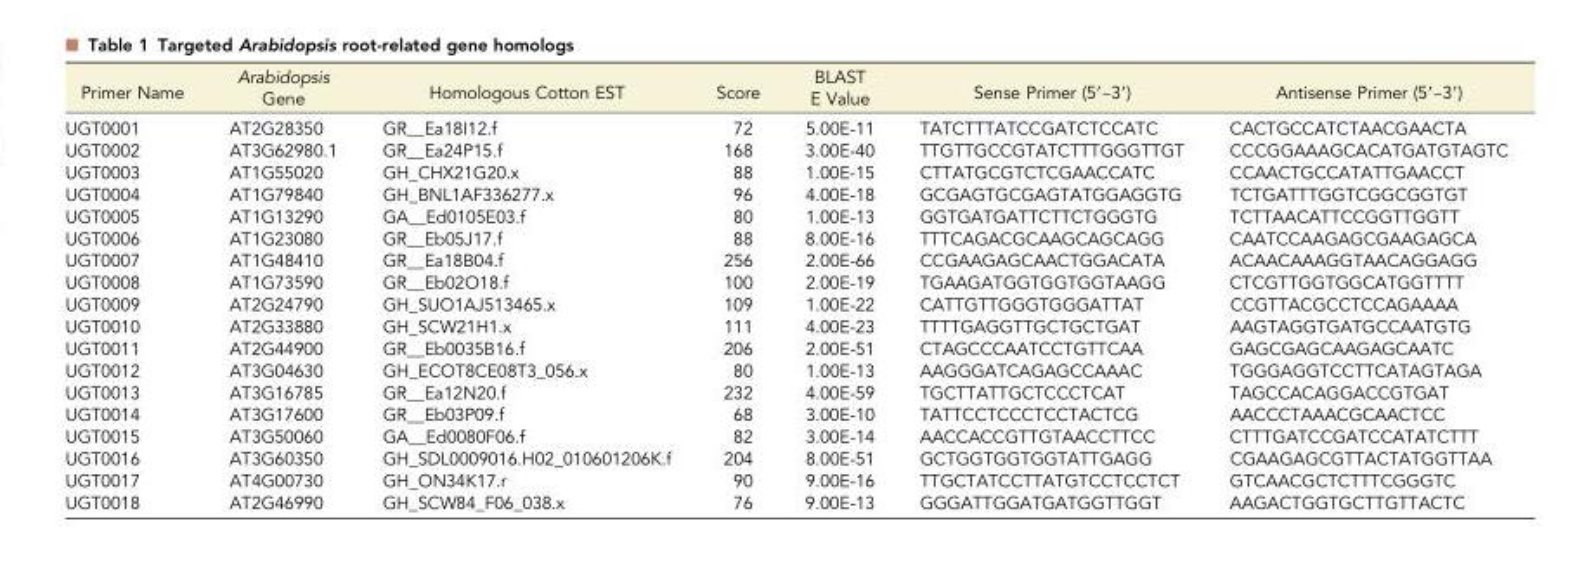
<table><thead><tr><td>Primer Name</td><td>Arabidopsis Gene</td><td>Homologous Cotton EST</td><td>Score</td><td>BLAST E Value</td><td>Sense Primer (5′–3′)</td><td>Antisense Primer (5′–3′)</td></tr></thead><tbody><tr><td>UGT0001</td><td>AT2G28350</td><td>GR__Ea18I12.f</td><td>72</td><td>5.00E-11</td><td>TATCTTTATCCGATCTCCATC</td><td>CACTGCCATCTAACGAACTA</td></tr><tr><td>UGT0002</td><td>AT3G62980.1</td><td>GR__Ea24P15.f</td><td>168</td><td>3.00E-40</td><td>TTGTTGCCGTATCTTTGGGTTGT</td><td>CCCGGAAAGCACATGATGTAGTC</td></tr><tr><td>UGT0003</td><td>AT1G55020</td><td>GH_CHX21G20.x</td><td>88</td><td>1.00E-15</td><td>CTTATGCGTCTCGAACCATC</td><td>CCAACTGCCATATTGAACCT</td></tr><tr><td>UGT0004</td><td>AT1G79840</td><td>GH_BNL1AF336277.x</td><td>96</td><td>4.00E-18</td><td>GCGAGTGCGAGTATGGAGGTG</td><td>TCTGATTTGGTCGGCGGTGT</td></tr><tr><td>UGT0005</td><td>AT1G13290</td><td>GA__Ed0105E03.f</td><td>80</td><td>1.00E-13</td><td>GGTGATGATTCTTCTGGGTG</td><td>TCTTAACATTCCGGTTGGTT</td></tr><tr><td>UGT0006</td><td>AT1G23080</td><td>GR__Eb05J17.f</td><td>88</td><td>8.00E-16</td><td>TTTCAGACGCAAGCAGCAGG</td><td>CAATCCAAGAGCGAAGAGCA</td></tr><tr><td>UGT0007</td><td>AT1G48410</td><td>GR__Ea18B04.f</td><td>256</td><td>2.00E-66</td><td>CCGAAGAGCAACTGGACATA</td><td>ACAACAAAGGTAACAGGAGG</td></tr><tr><td>UGT0008</td><td>AT1G73590</td><td>GR__Eb02O18.f</td><td>100</td><td>2.00E-19</td><td>TGAAGATGGTGGTGGTAAGG</td><td>CTCGTTGGTGGCATGGTTTT</td></tr><tr><td>UGT0009</td><td>AT2G24790</td><td>GH_SUO1AJ513465.x</td><td>109</td><td>1.00E-22</td><td>CATTGTTGGGTGGGATTAT</td><td>CCGTTACGCCTCCAGAAAA</td></tr><tr><td>UGT0010</td><td>AT2G33880</td><td>GH_SCW21H1.x</td><td>111</td><td>4.00E-23</td><td>TTTTGAGGTTGCTGCTGAT</td><td>AAGTAGGTGATGCCAATGTG</td></tr><tr><td>UGT0011</td><td>AT2G44900</td><td>GR__Eb0035B16.f</td><td>206</td><td>2.00E-51</td><td>CTAGCCCAATCCTGTTCAA</td><td>GAGCGAGCAAGAGCAATC</td></tr><tr><td>UGT0012</td><td>AT3G04630</td><td>GH_ECOT8CE08T3_056.x</td><td>80</td><td>1.00E-13</td><td>AAGGGATCAGAGCCAAAC</td><td>TGGGAGGTCCTTCATAGTAGA</td></tr><tr><td>UGT0013</td><td>AT3G16785</td><td>GR__Ea12N20.f</td><td>232</td><td>4.00E-59</td><td>TGCTTATTGCTCCCTCAT</td><td>TAGCCACAGGACCGTGAT</td></tr><tr><td>UGT0014</td><td>AT3G17600</td><td>GR__Eb03P09.f</td><td>68</td><td>3.00E-10</td><td>TATTCCTCCCTCCTACTCG</td><td>AACCCTAAACGCAACTCC</td></tr><tr><td>UGT0015</td><td>AT3G50060</td><td>GA__Ed0080F06.f</td><td>82</td><td>3.00E-14</td><td>AACCACCGTTGTAACCTTCC</td><td>CTTTGATCCGATCCATATCTTT</td></tr><tr><td>UGT0016</td><td>AT3G60350</td><td>GH_SDL0009016.H02_010601206K.f</td><td>204</td><td>8.00E-51</td><td>GCTGGTGGTGGTATTGAGG</td><td>CGAAGAGCGTTACTATGGTTAA</td></tr><tr><td>UGT0017</td><td>AT4G00730</td><td>GH_ON34K17.r</td><td>90</td><td>9.00E-16</td><td>TTGCTATCCTTATGTCCTCCTCT</td><td>GTCAACGCTCTTTCGGGTC</td></tr><tr><td>UGT0018</td><td>AT2G46990</td><td>GH_SCW84_F06_038.x</td><td>76</td><td>9.00E-13</td><td>GGGATTGGATGATGGTTGGT</td><td>AAGACTGGTGCTTGTTACTC</td></tr></tbody></table>